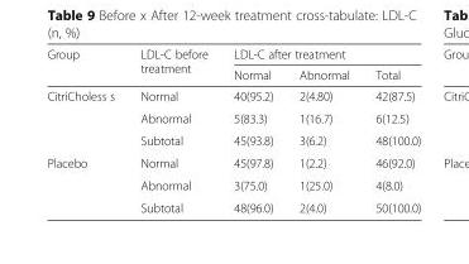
<table><thead><tr><td rowspan="2">Group</td><td rowspan="2">LDL-C before treatment</td><td colspan="3">LDL-C after treatment</td></tr><tr><td>Normal</td><td>Abnormal</td><td>Total</td></tr></thead><tbody><tr><td rowspan="3">CitriCholess s</td><td>Normal</td><td>40(95.2)</td><td>2(4.80)</td><td>42(87.5)</td></tr><tr><td>Abnormal</td><td>5(83.3)</td><td>1(16.7)</td><td>6(12.5)</td></tr><tr><td>Subtotal</td><td>45(93.8)</td><td>3(6.2)</td><td>48(100.0)</td></tr><tr><td rowspan="3">Placebo</td><td>Normal</td><td>45(97.8)</td><td>1(2.2)</td><td>46(92.0)</td></tr><tr><td>Abnormal</td><td>3(75.0)</td><td>1(25.0)</td><td>4(8.0)</td></tr><tr><td>Subtotal</td><td>48(96.0)</td><td>2(4.0)</td><td>50(100.0)</td></tr></tbody></table>